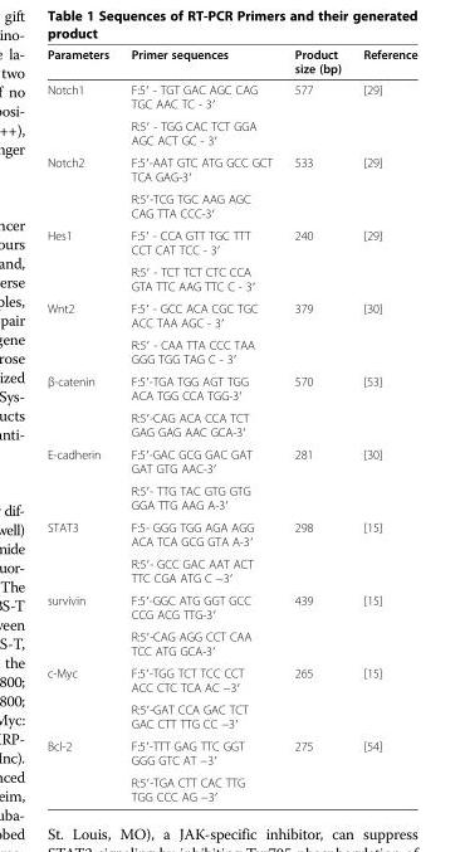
<table><thead><tr><td>Parameters</td><td>Primer sequences</td><td>Product size (bp)</td><td>Reference</td></tr></thead><tbody><tr><td rowspan="2">Notch1</td><td>F:5′ - TGT GAC AGC CAG TGC AAC TC - 3′</td><td rowspan="2">577</td><td rowspan="2">[29]</td></tr><tr><td>R:5′ - TGG CAC TCT GGA AGC ACT GC - 3′</td></tr><tr><td rowspan="2">Notch2</td><td>F:5′-AAT GTC ATG GCC GCT TCA GAG-3′</td><td rowspan="2">533</td><td rowspan="2">[29]</td></tr><tr><td>R:5′-TCG TGC AAG AGC CAG TTA CCC-3′</td></tr><tr><td rowspan="2">Hes1</td><td>F:5′ - CCA GTT TGC TTT CCT CAT TCC - 3′</td><td rowspan="2">240</td><td rowspan="2">[29]</td></tr><tr><td>R:5′ - TCT TCT CTC CCA GTA TTC AAG TTC C - 3′</td></tr><tr><td rowspan="2">Wnt2</td><td>F:5′ - GCC ACA CGC TGC ACC TAA AGC - 3′</td><td rowspan="2">379</td><td rowspan="2">[30]</td></tr><tr><td>R:5′ - CAA TTA CCC TAA GGG TGG TAG C - 3′</td></tr><tr><td rowspan="2">β-catenin</td><td>F:5′-TGA TGG AGT TGG ACA TGG CCA TGG-3′</td><td rowspan="2">570</td><td rowspan="2">[53]</td></tr><tr><td>R:5′-CAG ACA CCA TCT GAG GAG AAC GCA-3′</td></tr><tr><td rowspan="2">E-cadherin</td><td>F:5′-GAC GCG GAC GAT GAT GTG AAC-3′</td><td rowspan="2">281</td><td rowspan="2">[30]</td></tr><tr><td>R:5′- TTG TAC GTG GTG GGA TTG AAG A-3′</td></tr><tr><td rowspan="2">STAT3</td><td>F:5- GGG TGG AGA AGG ACA TCA GCG GTA A-3′</td><td rowspan="2">298</td><td rowspan="2">[15]</td></tr><tr><td>R:5′- GCC GAC AAT ACT TTC CGA ATG C −3′</td></tr><tr><td rowspan="2">survivin</td><td>F:5′-GGC ATG GGT GCC CCG ACG TTG-3′</td><td rowspan="2">439</td><td rowspan="2">[15]</td></tr><tr><td>R:5′-CAG AGG CCT CAA TCC ATG GCA-3′</td></tr><tr><td rowspan="2">c-Myc</td><td>F:5′-TGG TCT TCC CCT ACC CTC TCA AC −3′</td><td rowspan="2">265</td><td rowspan="2">[15]</td></tr><tr><td>R:5′-GAT CCA GAC TCT GAC CTT TTG CC −3′</td></tr><tr><td rowspan="2">Bcl-2</td><td>F:5′-TTT GAG TTC GGT GGG GTC AT −3′</td><td rowspan="2">275</td><td rowspan="2">[54]</td></tr><tr><td>R:5′-TGA CTT CAC TTG TGG CCC AG −3′</td></tr></tbody></table>